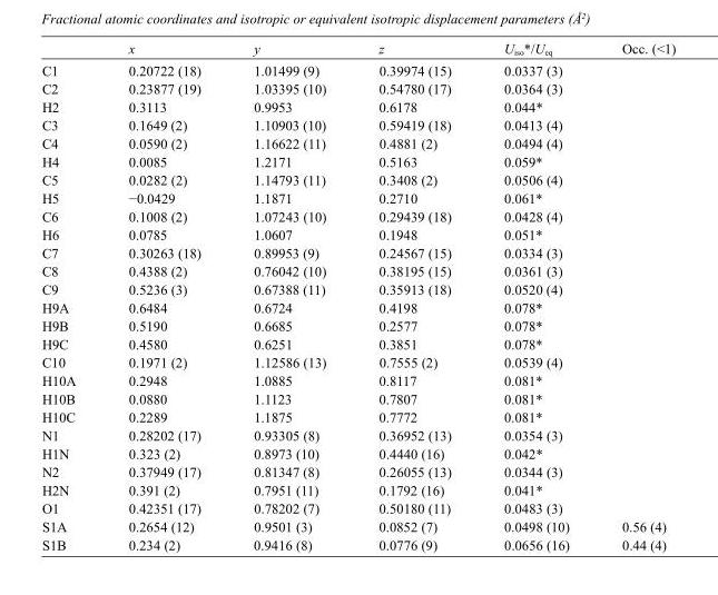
<table><thead><tr><td></td><td>x</td><td>y</td><td>z</td><td>U<sub>iso</sub>*/U<sub>eq</sub></td><td>Occ. (&lt;1)</td></tr></thead><tbody><tr><td>C1</td><td>0.20722 (18)</td><td>1.01499 (9)</td><td>0.39974 (15)</td><td>0.0337 (3)</td><td></td></tr><tr><td>C2</td><td>0.23877 (19)</td><td>1.03395 (10)</td><td>0.54780 (17)</td><td>0.0364 (3)</td><td></td></tr><tr><td>H2</td><td>0.3113</td><td>0.9953</td><td>0.6178</td><td>0.044*</td><td></td></tr><tr><td>C3</td><td>0.1649 (2)</td><td>1.10903 (10)</td><td>0.59419 (18)</td><td>0.0413 (4)</td><td></td></tr><tr><td>C4</td><td>0.0590 (2)</td><td>1.16622 (11)</td><td>0.4881 (2)</td><td>0.0494 (4)</td><td></td></tr><tr><td>H4</td><td>0.0085</td><td>1.2171</td><td>0.5163</td><td>0.059*</td><td></td></tr><tr><td>C5</td><td>0.0282 (2)</td><td>1.14793 (11)</td><td>0.3408 (2)</td><td>0.0506 (4)</td><td></td></tr><tr><td>H5</td><td>−0.0429</td><td>1.1871</td><td>0.2710</td><td>0.061*</td><td></td></tr><tr><td>C6</td><td>0.1008 (2)</td><td>1.07243 (10)</td><td>0.29439 (18)</td><td>0.0428 (4)</td><td></td></tr><tr><td>H6</td><td>0.0785</td><td>1.0607</td><td>0.1948</td><td>0.051*</td><td></td></tr><tr><td>C7</td><td>0.30263 (18)</td><td>0.89953 (9)</td><td>0.24567 (15)</td><td>0.0334 (3)</td><td></td></tr><tr><td>C8</td><td>0.4388 (2)</td><td>0.76042 (10)</td><td>0.38195 (15)</td><td>0.0361 (3)</td><td></td></tr><tr><td>C9</td><td>0.5236 (3)</td><td>0.67388 (11)</td><td>0.35913 (18)</td><td>0.0520 (4)</td><td></td></tr><tr><td>H9A</td><td>0.6484</td><td>0.6724</td><td>0.4198</td><td>0.078*</td><td></td></tr><tr><td>H9B</td><td>0.5190</td><td>0.6685</td><td>0.2577</td><td>0.078*</td><td></td></tr><tr><td>H9C</td><td>0.4580</td><td>0.6251</td><td>0.3851</td><td>0.078*</td><td></td></tr><tr><td>C10</td><td>0.1971 (2)</td><td>1.12586 (13)</td><td>0.7555 (2)</td><td>0.0539 (4)</td><td></td></tr><tr><td>H10A</td><td>0.2948</td><td>1.0885</td><td>0.8117</td><td>0.081*</td><td></td></tr><tr><td>H10B</td><td>0.0880</td><td>1.1123</td><td>0.7807</td><td>0.081*</td><td></td></tr><tr><td>H10C</td><td>0.2289</td><td>1.1875</td><td>0.7772</td><td>0.081*</td><td></td></tr><tr><td>N1</td><td>0.28202 (17)</td><td>0.93305 (8)</td><td>0.36952 (13)</td><td>0.0354 (3)</td><td></td></tr><tr><td>H1N</td><td>0.323 (2)</td><td>0.8973 (10)</td><td>0.4440 (16)</td><td>0.042*</td><td></td></tr><tr><td>N2</td><td>0.37949 (17)</td><td>0.81347 (8)</td><td>0.26055 (13)</td><td>0.0344 (3)</td><td></td></tr><tr><td>H2N</td><td>0.391 (2)</td><td>0.7951 (11)</td><td>0.1792 (16)</td><td>0.041*</td><td></td></tr><tr><td>O1</td><td>0.42351 (17)</td><td>0.78202 (7)</td><td>0.50180 (11)</td><td>0.0483 (3)</td><td></td></tr><tr><td>S1A</td><td>0.2654 (12)</td><td>0.9501 (3)</td><td>0.0852 (7)</td><td>0.0498 (10)</td><td>0.56 (4)</td></tr><tr><td>S1B</td><td>0.234 (2)</td><td>0.9416 (8)</td><td>0.0776 (9)</td><td>0.0656 (16)</td><td>0.44 (4)</td></tr></tbody></table>